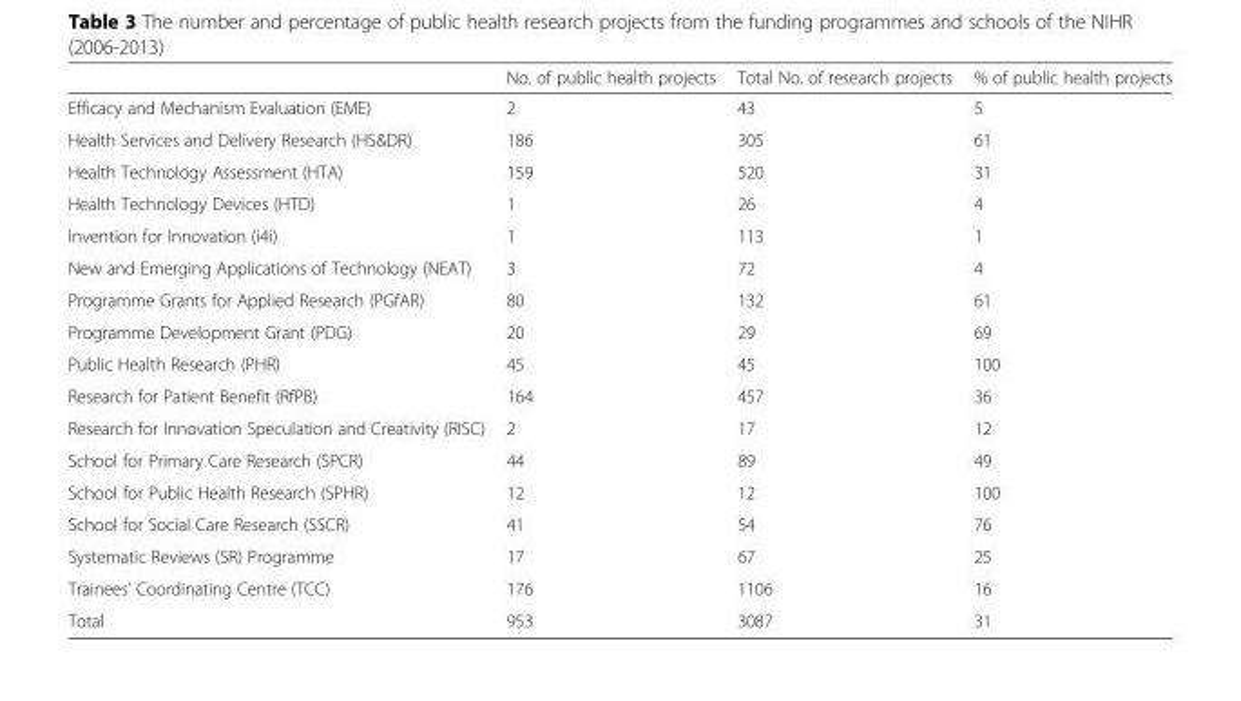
<table><thead><tr><td></td><td>No. of public health projects</td><td>Total No. of research projects</td><td>% of public health projects</td></tr></thead><tbody><tr><td>Efficacy and Mechanism Evaluation (EME)</td><td>2</td><td>43</td><td>5</td></tr><tr><td>Health Services and Delivery Research (HS&amp;DR)</td><td>186</td><td>305</td><td>61</td></tr><tr><td>Health Technology Assessment (HTA)</td><td>159</td><td>520</td><td>31</td></tr><tr><td>Health Technology Devices (HTD)</td><td>1</td><td>26</td><td>4</td></tr><tr><td>Invention for Innovation (i4i)</td><td>1</td><td>113</td><td>1</td></tr><tr><td>New and Emerging Applications of Technology (NEAT)</td><td>3</td><td>72</td><td>4</td></tr><tr><td>Programme Grants for Applied Research (PGfAR)</td><td>80</td><td>132</td><td>61</td></tr><tr><td>Programme Development Grant (PDG)</td><td>20</td><td>29</td><td>69</td></tr><tr><td>Public Health Research (PHR)</td><td>45</td><td>45</td><td>100</td></tr><tr><td>Research for Patient Benefit (RfPB)</td><td>164</td><td>457</td><td>36</td></tr><tr><td>Research for Innovation Speculation and Creativity (RISC)</td><td>2</td><td>17</td><td>12</td></tr><tr><td>School for Primary Care Research (SPCR)</td><td>44</td><td>89</td><td>49</td></tr><tr><td>School for Public Health Research (SPHR)</td><td>12</td><td>12</td><td>100</td></tr><tr><td>School for Social Care Research (SSCR)</td><td>41</td><td>54</td><td>76</td></tr><tr><td>Systematic Reviews (SR) Programme</td><td>17</td><td>67</td><td>25</td></tr><tr><td>Trainees’ Coordinating Centre (TCC)</td><td>176</td><td>1106</td><td>16</td></tr><tr><td>Total</td><td>953</td><td>3087</td><td>31</td></tr></tbody></table>